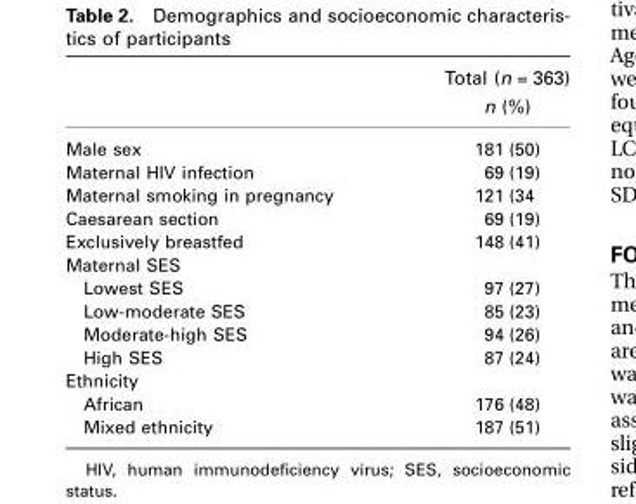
<table><thead><tr><td rowspan="2"></td><td rowspan="2">Total (n = 363) n (%)</td></tr><tr></tr></thead><tbody><tr><td>Male sex</td><td>181 (50)</td></tr><tr><td>Maternal HIV infection</td><td>69 (19)</td></tr><tr><td>Maternal smoking in pregnancy</td><td>121 (34</td></tr><tr><td>Caesarean section</td><td>69 (19)</td></tr><tr><td>Exclusively breastfed</td><td>148 (41)</td></tr><tr><td colspan="2">Maternal SES</td></tr><tr><td>Lowest SES</td><td>97 (27)</td></tr><tr><td>Low-moderate SES</td><td>85 (23)</td></tr><tr><td>Moderate-high SES</td><td>94 (26)</td></tr><tr><td>High SES</td><td>87 (24)</td></tr><tr><td colspan="2">Ethnicity</td></tr><tr><td>African</td><td>176 (48)</td></tr><tr><td>Mixed ethnicity</td><td>187 (51)</td></tr></tbody></table>